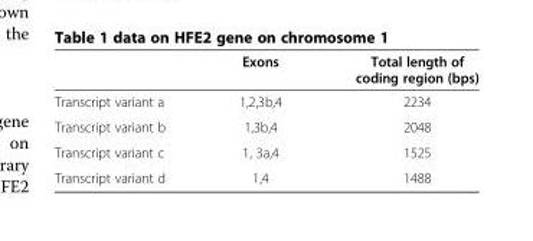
<table><thead><tr><td></td><td>Exons</td><td>Total length of coding region (bps)</td></tr></thead><tbody><tr><td>Transcript variant a</td><td>1,2,3b,4</td><td>2234</td></tr><tr><td>Transcript variant b</td><td>1,3b,4</td><td>2048</td></tr><tr><td>Transcript variant c</td><td>1, 3a,4</td><td>1525</td></tr><tr><td>Transcript variant d</td><td>1,4</td><td>1488</td></tr></tbody></table>